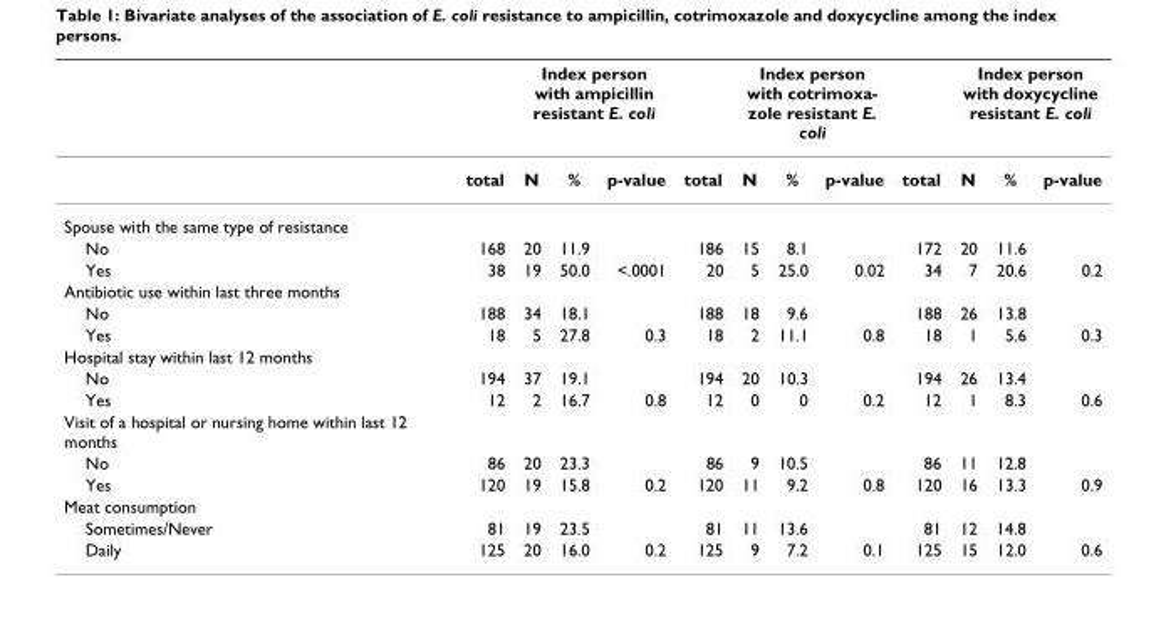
<table><thead><tr><td rowspan="2"></td><td rowspan="2">total</td><td colspan="3">Index person with ampicillin resistant E. coli</td><td rowspan="2">total</td><td colspan="3">Index person with cotrimoxa- zole resistant E. coli</td><td rowspan="2">total</td><td colspan="3">Index person with doxycycline resistant E. coli</td></tr><tr><td>N</td><td>%</td><td>p-value</td><td>N</td><td>%</td><td>p-value</td><td>N</td><td>%</td><td>p-value</td></tr></thead><tbody><tr><td colspan="13">Spouse with the same type of resistance</td></tr><tr><td>No</td><td>168</td><td>20</td><td>11.9</td><td></td><td>186</td><td>15</td><td>8.1</td><td></td><td>172</td><td>20</td><td>11.6</td><td></td></tr><tr><td>Yes</td><td>38</td><td>19</td><td>50.0</td><td>&lt;.0001</td><td>20</td><td>5</td><td>25.0</td><td>0.02</td><td>34</td><td>7</td><td>20.6</td><td>0.2</td></tr><tr><td colspan="13">Antibiotic use within last three months</td></tr><tr><td>No</td><td>188</td><td>34</td><td>18.1</td><td></td><td>188</td><td>18</td><td>9.6</td><td></td><td>188</td><td>26</td><td>13.8</td><td></td></tr><tr><td>Yes</td><td>18</td><td>5</td><td>27.8</td><td>0.3</td><td>18</td><td>2</td><td>11.1</td><td>0.8</td><td>18</td><td>1</td><td>5.6</td><td>0.3</td></tr><tr><td colspan="13">Hospital stay within last 12 months</td></tr><tr><td>No</td><td>194</td><td>37</td><td>19.1</td><td></td><td>194</td><td>20</td><td>10.3</td><td></td><td>194</td><td>26</td><td>13.4</td><td></td></tr><tr><td>Yes</td><td>12</td><td>2</td><td>16.7</td><td>0.8</td><td>12</td><td>0</td><td>0</td><td>0.2</td><td>12</td><td>1</td><td>8.3</td><td>0.6</td></tr><tr><td colspan="13">Visit of a hospital or nursing home within last 12 months</td></tr><tr><td>No</td><td>86</td><td>20</td><td>23.3</td><td></td><td>86</td><td>9</td><td>10.5</td><td></td><td>86</td><td>11</td><td>12.8</td><td></td></tr><tr><td>Yes</td><td>120</td><td>19</td><td>15.8</td><td>0.2</td><td>120</td><td>11</td><td>9.2</td><td>0.8</td><td>120</td><td>16</td><td>13.3</td><td>0.9</td></tr><tr><td colspan="13">Meat consumption</td></tr><tr><td>Sometimes/Never</td><td>81</td><td>19</td><td>23.5</td><td></td><td>81</td><td>11</td><td>13.6</td><td></td><td>81</td><td>12</td><td>14.8</td><td></td></tr><tr><td>Daily</td><td>125</td><td>20</td><td>16.0</td><td>0.2</td><td>125</td><td>9</td><td>7.2</td><td>0.1</td><td>125</td><td>15</td><td>12.0</td><td>0.6</td></tr></tbody></table>